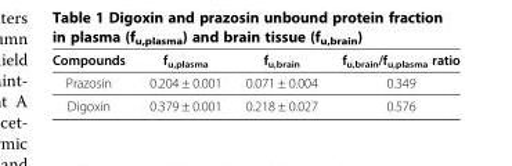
<table><thead><tr><td>Compounds</td><td>f<sub>u,plasma</sub></td><td>f<sub>u,brain</sub></td><td>f<sub>u,brain</sub>/f<sub>u,plasma</sub> ratio</td></tr></thead><tbody><tr><td>Prazosin</td><td>0.204 ± 0.001</td><td>0.071 ± 0.004</td><td>0.349</td></tr><tr><td>Digoxin</td><td>0.379 ± 0.001</td><td>0.218 ± 0.027</td><td>0.576</td></tr></tbody></table>